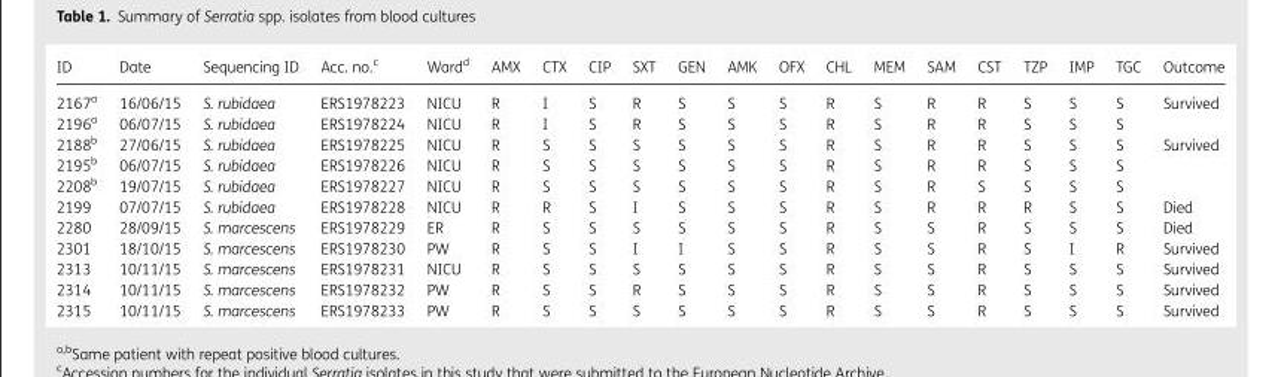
<table><thead><tr><td>ID</td><td>Date</td><td>Sequencing ID</td><td>Acc. no.<sup>c</sup></td><td>Ward<sup>d</sup></td><td>AMX</td><td>CTX</td><td>CIP</td><td>SXT</td><td>GEN</td><td>AMK</td><td>OFX</td><td>CHL</td><td>MEM</td><td>SAM</td><td>CST</td><td>TZP</td><td>IMP</td><td>TGC</td><td>Outcome</td></tr></thead><tbody><tr><td>2167<sup>a</sup></td><td>16/06/15</td><td>S. rubidaea</td><td>ERS1978223</td><td>NICU</td><td>R</td><td>I</td><td>S</td><td>R</td><td>S</td><td>S</td><td>S</td><td>R</td><td>S</td><td>R</td><td>R</td><td>S</td><td>S</td><td>S</td><td rowspan="2">Survived</td></tr><tr><td>2196<sup>a</sup></td><td>06/07/15</td><td>S. rubidaea</td><td>ERS1978224</td><td>NICU</td><td>R</td><td>I</td><td>S</td><td>R</td><td>S</td><td>S</td><td>S</td><td>R</td><td>S</td><td>R</td><td>R</td><td>S</td><td>S</td><td>S</td></tr><tr><td>2188<sup>b</sup></td><td>27/06/15</td><td>S. rubidaea</td><td>ERS1978225</td><td>NICU</td><td>R</td><td>S</td><td>S</td><td>S</td><td>S</td><td>S</td><td>S</td><td>R</td><td>S</td><td>R</td><td>R</td><td>S</td><td>S</td><td>S</td><td rowspan="3">Survived</td></tr><tr><td>2195<sup>b</sup></td><td>06/07/15</td><td>S. rubidaea</td><td>ERS1978226</td><td>NICU</td><td>R</td><td>S</td><td>S</td><td>S</td><td>S</td><td>S</td><td>S</td><td>R</td><td>S</td><td>R</td><td>R</td><td>S</td><td>S</td><td>S</td></tr><tr><td>2208<sup>b</sup></td><td>19/07/15</td><td>S. rubidaea</td><td>ERS1978227</td><td>NICU</td><td>R</td><td>S</td><td>S</td><td>S</td><td>S</td><td>S</td><td>S</td><td>R</td><td>S</td><td>R</td><td>S</td><td>S</td><td>S</td><td>S</td></tr><tr><td>2199</td><td>07/07/15</td><td>S. rubidaea</td><td>ERS1978228</td><td>NICU</td><td>R</td><td>R</td><td>S</td><td>I</td><td>S</td><td>S</td><td>S</td><td>R</td><td>S</td><td>R</td><td>R</td><td>R</td><td>S</td><td>S</td><td>Died</td></tr><tr><td>2280</td><td>28/09/15</td><td>S. marcescens</td><td>ERS1978229</td><td>ER</td><td>R</td><td>S</td><td>S</td><td>S</td><td>S</td><td>S</td><td>S</td><td>R</td><td>S</td><td>S</td><td>R</td><td>S</td><td>S</td><td>S</td><td>Died</td></tr><tr><td>2301</td><td>18/10/15</td><td>S. marcescens</td><td>ERS1978230</td><td>PW</td><td>R</td><td>S</td><td>S</td><td>I</td><td>I</td><td>S</td><td>S</td><td>R</td><td>S</td><td>S</td><td>R</td><td>S</td><td>I</td><td>R</td><td>Survived</td></tr><tr><td>2313</td><td>10/11/15</td><td>S. marcescens</td><td>ERS1978231</td><td>NICU</td><td>R</td><td>S</td><td>S</td><td>S</td><td>S</td><td>S</td><td>S</td><td>R</td><td>S</td><td>S</td><td>R</td><td>S</td><td>S</td><td>S</td><td>Survived</td></tr><tr><td>2314</td><td>10/11/15</td><td>S. marcescens</td><td>ERS1978232</td><td>PW</td><td>R</td><td>S</td><td>S</td><td>R</td><td>S</td><td>S</td><td>S</td><td>R</td><td>S</td><td>S</td><td>R</td><td>S</td><td>S</td><td>S</td><td>Survived</td></tr><tr><td>2315</td><td>10/11/15</td><td>S. marcescens</td><td>ERS1978233</td><td>PW</td><td>R</td><td>S</td><td>S</td><td>S</td><td>S</td><td>S</td><td>S</td><td>R</td><td>S</td><td>S</td><td>R</td><td>S</td><td>S</td><td>S</td><td>Survived</td></tr></tbody></table>